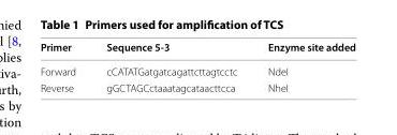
<table><thead><tr><td>Primer</td><td>Sequence 5‑3</td><td>Enzyme site added</td></tr></thead><tbody><tr><td>Forward</td><td>cCATATGatgatcagattcttagtcctc</td><td>NdeI</td></tr><tr><td>Reverse</td><td>gGCTAGCctaaatagcataacttcca</td><td>NheI</td></tr></tbody></table>